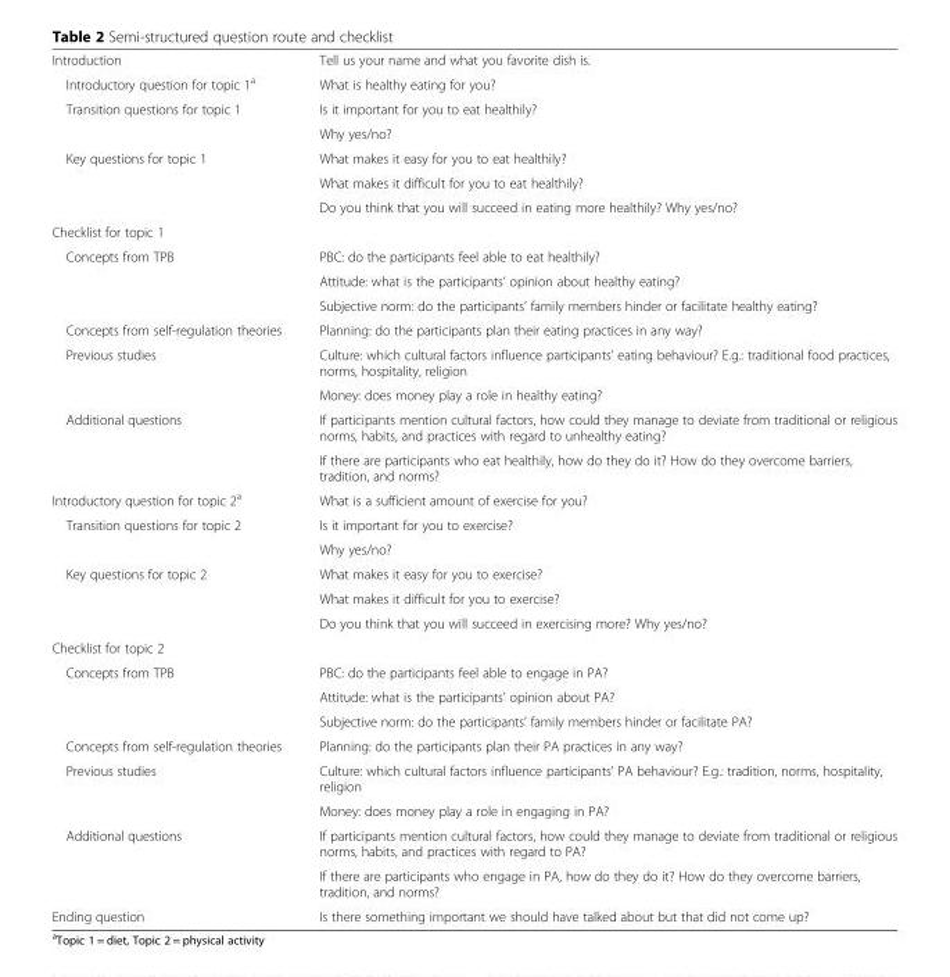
<table><tbody><tr><td>Introduction</td><td>Tell us your name and what you favorite dish is.</td></tr><tr><td>Introductory question for topic 1<sup>a</sup></td><td>What is healthy eating for you?</td></tr><tr><td rowspan="2">Transition questions for topic 1</td><td>Is it important for you to eat healthily?</td></tr><tr><td>Why yes/no?</td></tr><tr><td rowspan="3">Key questions for topic 1</td><td>What makes it easy for you to eat healthily?</td></tr><tr><td>What makes it difficult for you to eat healthily?</td></tr><tr><td>Do you think that you will succeed in eating more healthily? Why yes/no?</td></tr><tr><td colspan="2">Checklist for topic 1</td></tr><tr><td rowspan="3">Concepts from TPB</td><td>PBC: do the participants feel able to eat healthily?</td></tr><tr><td>Attitude: what is the participants’ opinion about healthy eating?</td></tr><tr><td>Subjective norm: do the participants’ family members hinder or facilitate healthy eating?</td></tr><tr><td>Concepts from self-regulation theories</td><td>Planning: do the participants plan their eating practices in any way?</td></tr><tr><td rowspan="2">Previous studies</td><td>Culture: which cultural factors influence participants’ eating behaviour? E.g.: traditional food practices, norms, hospitality, religion</td></tr><tr><td>Money: does money play a role in healthy eating?</td></tr><tr><td rowspan="2">Additional questions</td><td>If participants mention cultural factors, how could they manage to deviate from traditional or religious norms, habits, and practices with regard to unhealthy eating?</td></tr><tr><td>If there are participants who eat healthily, how do they do it? How do they overcome barriers, tradition, and norms?</td></tr><tr><td>Introductory question for topic 2<sup>a</sup></td><td>What is a sufficient amount of exercise for you?</td></tr><tr><td rowspan="2">Transition questions for topic 2</td><td>Is it important for you to exercise?</td></tr><tr><td>Why yes/no?</td></tr><tr><td rowspan="3">Key questions for topic 2</td><td>What makes it easy for you to exercise?</td></tr><tr><td>What makes it difficult for you to exercise?</td></tr><tr><td>Do you think that you will succeed in exercising more? Why yes/no?</td></tr><tr><td colspan="2">Checklist for topic 2</td></tr><tr><td rowspan="3">Concepts from TPB</td><td>PBC: do the participants feel able to engage in PA?</td></tr><tr><td>Attitude: what is the participants’ opinion about PA?</td></tr><tr><td>Subjective norm: do the participants’ family members hinder or facilitate PA?</td></tr><tr><td>Concepts from self-regulation theories</td><td>Planning: do the participants plan their PA practices in any way?</td></tr><tr><td rowspan="2">Previous studies</td><td>Culture: which cultural factors influence participants’ PA behaviour? E.g.: tradition, norms, hospitality, religion</td></tr><tr><td>Money: does money play a role in engaging in PA?</td></tr><tr><td rowspan="2">Additional questions</td><td>If participants mention cultural factors, how could they manage to deviate from traditional or religious norms, habits, and practices with regard to PA?</td></tr><tr><td>If there are participants who engage in PA, how do they do it? How do they overcome barriers, tradition, and norms?</td></tr><tr><td>Ending question</td><td>Is there something important we should have talked about but that did not come up?</td></tr></tbody></table>